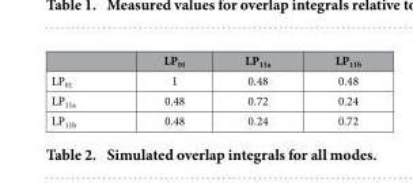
<table><thead><tr><td></td><td>LP<sub>01</sub></td><td>LP<sub>11a</sub></td><td>LP<sub>11b</sub></td></tr></thead><tbody><tr><td>LP<sub>01</sub></td><td>1</td><td>0.48</td><td>0.48</td></tr><tr><td>LP<sub>11a</sub></td><td>0.48</td><td>0.72</td><td>0.24</td></tr><tr><td>LP<sub>11b</sub></td><td>0.48</td><td>0.24</td><td>0.72</td></tr></tbody></table>